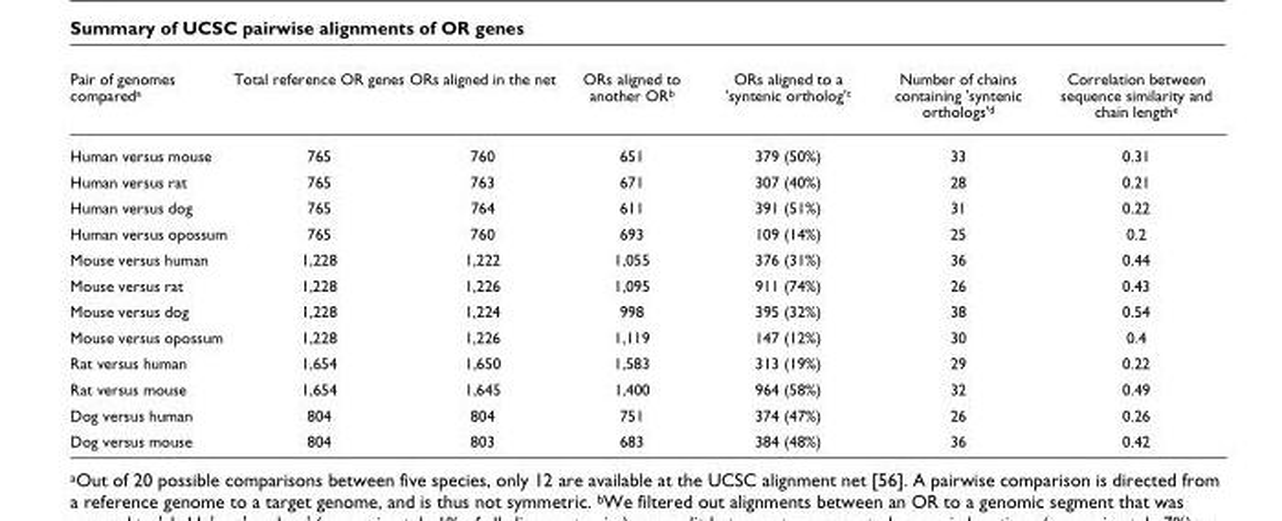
<table><thead><tr><td>Pair of genomes compareda</td><td>Total reference OR genes</td><td>ORs aligned in the net</td><td>ORs aligned to another ORb</td><td>ORs aligned to a &#x27;syntenic ortholog&#x27;c</td><td>Number of chains containing &#x27;syntenic orthologs&#x27;d</td><td>Correlation between sequence similarity and chain lengthe</td></tr></thead><tbody><tr><td>Human versus mouse</td><td>765</td><td>760</td><td>651</td><td>379 (50%)</td><td>33</td><td>0.31</td></tr><tr><td>Human versus rat</td><td>765</td><td>763</td><td>671</td><td>307 (40%)</td><td>28</td><td>0.21</td></tr><tr><td>Human versus dog</td><td>765</td><td>764</td><td>611</td><td>391 (51%)</td><td>31</td><td>0.22</td></tr><tr><td>Human versus opossum</td><td>765</td><td>760</td><td>693</td><td>109 (14%)</td><td>25</td><td>0.2</td></tr><tr><td>Mouse versus human</td><td>1,228</td><td>1,222</td><td>1,055</td><td>376 (31%)</td><td>36</td><td>0.44</td></tr><tr><td>Mouse versus rat</td><td>1,228</td><td>1,226</td><td>1,095</td><td>911 (74%)</td><td>26</td><td>0.43</td></tr><tr><td>Mouse versus dog</td><td>1,228</td><td>1,224</td><td>998</td><td>395 (32%)</td><td>38</td><td>0.54</td></tr><tr><td>Mouse versus opossum</td><td>1,228</td><td>1,226</td><td>1,119</td><td>147 (12%)</td><td>30</td><td>0.4</td></tr><tr><td>Rat versus human</td><td>1,654</td><td>1,650</td><td>1,583</td><td>313 (19%)</td><td>29</td><td>0.22</td></tr><tr><td>Rat versus mouse</td><td>1,654</td><td>1,645</td><td>1,400</td><td>964 (58%)</td><td>32</td><td>0.49</td></tr><tr><td>Dog versus human</td><td>804</td><td>804</td><td>751</td><td>374 (47%)</td><td>26</td><td>0.26</td></tr><tr><td>Dog versus mouse</td><td>804</td><td>803</td><td>683</td><td>384 (48%)</td><td>36</td><td>0.42</td></tr></tbody></table>